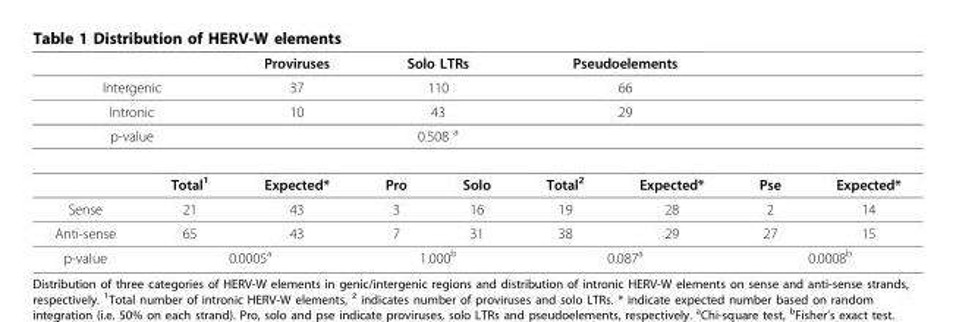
<table><thead><tr><td></td><td></td><td>Proviruses</td><td colspan="2">Solo LTRs</td><td colspan="2">Pseudoelements</td><td></td><td></td></tr></thead><tbody><tr><td colspan="2">Intergenic</td><td>37</td><td colspan="2">110</td><td colspan="2">66</td><td></td><td></td></tr><tr><td colspan="2">Intronic</td><td>10</td><td colspan="2">43</td><td colspan="2">29</td><td></td><td></td></tr><tr><td colspan="2">p-value</td><td></td><td colspan="2">0.508 a</td><td></td><td></td><td></td><td></td></tr><tr><td></td><td>Total<sup>1</sup></td><td>Expected*</td><td>Pro</td><td>Solo</td><td>Total<sup>2</sup></td><td>Expected*</td><td>Pse</td><td>Expected*</td></tr><tr><td>Sense</td><td>21</td><td>43</td><td>3</td><td>16</td><td>19</td><td>28</td><td>2</td><td>14</td></tr><tr><td>Anti-sense</td><td>65</td><td>43</td><td>7</td><td>31</td><td>38</td><td>29</td><td>27</td><td>15</td></tr><tr><td>p-value</td><td colspan="2">0.0005<sup>a</sup></td><td colspan="2">1.000<sup>b</sup></td><td colspan="2">0.087<sup>a</sup></td><td colspan="2">0.0008<sup>b</sup></td></tr></tbody></table>